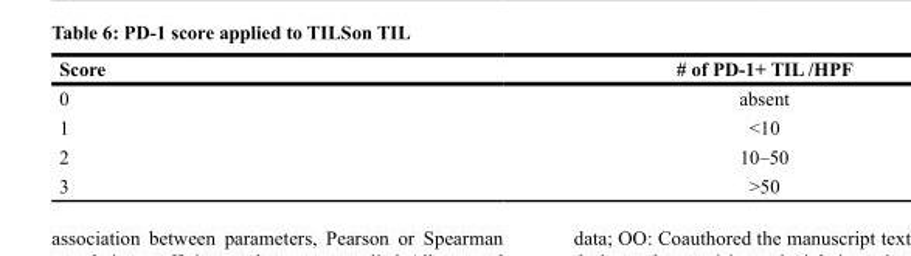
<table><thead><tr><td>Score</td><td># of PD-1+ TIL /HPF</td></tr></thead><tbody><tr><td>0</td><td>absent</td></tr><tr><td>1</td><td>&lt;10</td></tr><tr><td>2</td><td>10–50</td></tr><tr><td>3</td><td>&gt;50</td></tr></tbody></table>